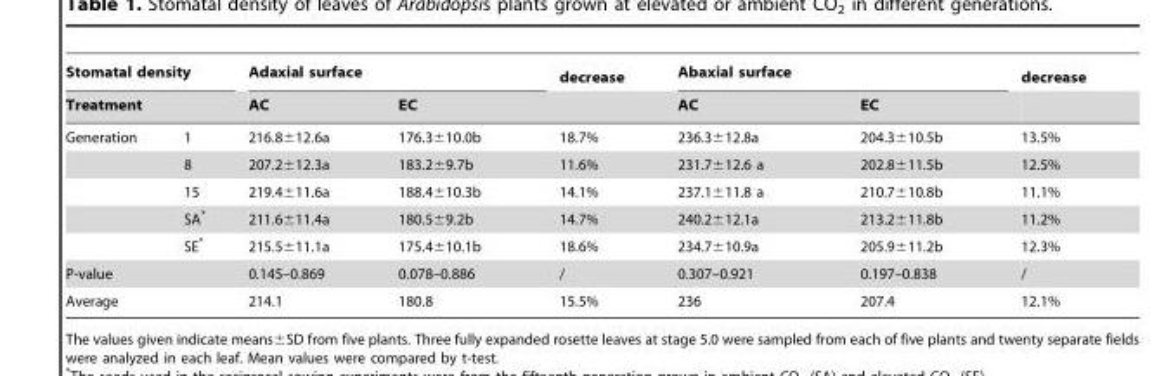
<table><thead><tr><td rowspan="2" colspan="2">Stomatal density Treatment</td><td colspan="2">Adaxial surface</td><td rowspan="3">decrease 18.7%</td><td colspan="2">Abaxial surface</td><td rowspan="3">decrease 13.5%</td></tr><tr><td rowspan="2">AC 216.8±12.6a</td><td rowspan="2">EC 176.3±10.0b</td><td rowspan="2">AC 236.3±12.8a</td><td rowspan="2">EC 204.3±10.5b</td></tr><tr><td>Generation</td><td>1</td></tr></thead><tbody><tr><td></td><td>8</td><td>207.2±12.3a</td><td>183.2±9.7b</td><td>11.6%</td><td>231.7±12.6 a</td><td>202.8±11.5b</td><td>12.5%</td></tr><tr><td></td><td>15</td><td>219.4±11.6a</td><td>188.4±10.3b</td><td>14.1%</td><td>237.1±11.8 a</td><td>210.7±10.8b</td><td>11.1%</td></tr><tr><td></td><td>SA*</td><td>211.6±11.4a</td><td>180.5±9.2b</td><td>14.7%</td><td>240.2±12.1a</td><td>213.2±11.8b</td><td>11.2%</td></tr><tr><td></td><td>SE*</td><td>215.5±11.1a</td><td>175.4±10.1b</td><td>18.6%</td><td>234.7±10.9a</td><td>205.9±11.2b</td><td>12.3%</td></tr><tr><td colspan="2">P-value</td><td>0.145–0.869</td><td>0.078–0.886</td><td>/</td><td>0.307–0.921</td><td>0.197–0.838</td><td>/</td></tr><tr><td colspan="2">Average</td><td>214.1</td><td>180.8</td><td>15.5%</td><td>236</td><td>207.4</td><td>12.1%</td></tr></tbody></table>